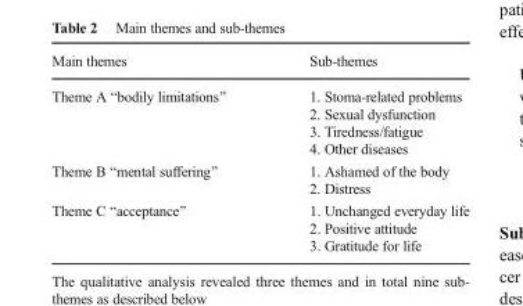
<table><thead><tr><td>Main themes</td><td>Sub-themes</td></tr></thead><tbody><tr><td>Theme A “bodily limitations”</td><td>1. Stoma-related problems 2. Sexual dysfunction 3. Tiredness/fatigue 4. Other diseases</td></tr><tr><td>Theme B “mental suffering”</td><td>1. Ashamed of the body 2. Distress</td></tr><tr><td>Theme C “acceptance”</td><td>1. Unchanged everyday life 2. Positive attitude 3. Gratitude for life</td></tr></tbody></table>